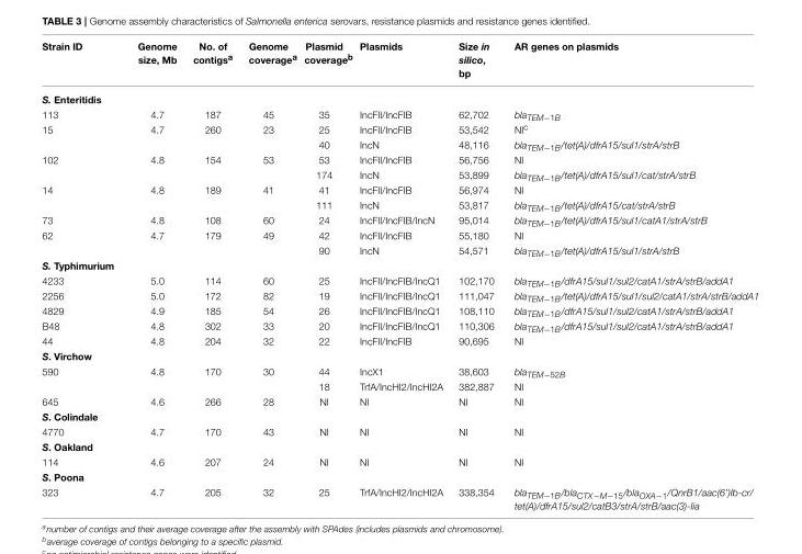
<table><thead><tr><td>Strain ID</td><td>Genome size, Mb</td><td>No. of contigs<sup>a</sup></td><td>Genome coverage<sup>a</sup></td><td>Plasmid coverage<sup>b</sup></td><td>Plasmids</td><td>Size in silico, bp</td><td>AR genes on plasmids</td></tr></thead><tbody><tr><td colspan="8">S. Enteritidis</td></tr><tr><td>113</td><td>4.7</td><td>187</td><td>45</td><td>35</td><td>IncFII/IncFIB</td><td>62,702</td><td>blaTEM−1B</td></tr><tr><td rowspan="2">15</td><td>4.7</td><td>260</td><td>23</td><td>25</td><td>IncFII/IncFIB</td><td>53,542</td><td>NI<sup>c</sup></td></tr><tr><td></td><td></td><td></td><td>40</td><td>IncN</td><td>48,116</td><td>blaTEM−1B/tet(A)/dfrA15/sul1/strA/strB</td></tr><tr><td rowspan="2">102</td><td>4.8</td><td>154</td><td>53</td><td>53</td><td>IncFII/IncFIB</td><td>56,756</td><td>NI</td></tr><tr><td></td><td></td><td></td><td>174</td><td>IncN</td><td>53,899</td><td>blaTEM−1B/tet(A)/dfrA15/sul1/cat/strA/strB</td></tr><tr><td rowspan="2">14</td><td>4.8</td><td>189</td><td>41</td><td>41</td><td>IncFII/IncFIB</td><td>56,974</td><td>NI</td></tr><tr><td></td><td></td><td></td><td>111</td><td>IncN</td><td>53,817</td><td>blaTEM−1B/tet(A)/dfrA15/cat/strA/strB</td></tr><tr><td>73</td><td>4.8</td><td>108</td><td>60</td><td>24</td><td>IncFII/IncFIB/IncN</td><td>95,014</td><td>blaTEM−1B/tet(A)/dfrA15/sul1/catA1/strA/strB</td></tr><tr><td rowspan="2">62</td><td>4.7</td><td>179</td><td>49</td><td>42</td><td>IncFII/IncFIB</td><td>55,180</td><td>NI</td></tr><tr><td></td><td></td><td></td><td>90</td><td>IncN</td><td>54,571</td><td>blaTEM−1B/tet(A)/dfrA15/sul1/strA/strB</td></tr><tr><td colspan="8">S. Typhimurium</td></tr><tr><td>4233</td><td>5.0</td><td>114</td><td>60</td><td>25</td><td>IncFII/IncFIB/IncQ1</td><td>102,170</td><td>blaTEM−1B/dfrA15/sul1/sul2/catA1/strA/strB/addA1</td></tr><tr><td>2256</td><td>5.0</td><td>172</td><td>82</td><td>19</td><td>IncFII/IncFIB/IncQ1</td><td>111,047</td><td>blaTEM−1B/tet(A)/dfrA15/sul1/sul2/catA1/strA/strB/addA1</td></tr><tr><td>4829</td><td>4.9</td><td>185</td><td>54</td><td>26</td><td>IncFII/IncFIB/IncQ1</td><td>108,110</td><td>blaTEM−1B/dfrA15/sul1/sul2/catA1/strA/strB/addA1</td></tr><tr><td>B48</td><td>4.8</td><td>302</td><td>33</td><td>20</td><td>IncFII/IncFIB/IncQ1</td><td>110,306</td><td>blaTEM−1B/dfrA15/sul1/sul2/catA1/strA/strB/addA1</td></tr><tr><td>44</td><td>4.8</td><td>204</td><td>32</td><td>22</td><td>IncFII/IncFIB</td><td>90,695</td><td>NI</td></tr><tr><td colspan="8">S. Virchow</td></tr><tr><td rowspan="2">590</td><td>4.8</td><td>170</td><td>30</td><td>44</td><td>IncX1</td><td>38,603</td><td>blaTEM−52B</td></tr><tr><td></td><td></td><td></td><td>18</td><td>TrfA/IncHI2/IncHI2A</td><td>382,887</td><td>NI</td></tr><tr><td>645</td><td>4.6</td><td>266</td><td>28</td><td>NI</td><td>NI</td><td>NI</td><td>NI</td></tr><tr><td colspan="8">S. Colindale</td></tr><tr><td>4770</td><td>4.7</td><td>170</td><td>43</td><td>NI</td><td>NI</td><td>NI</td><td>NI</td></tr><tr><td colspan="8">S. Oakland</td></tr><tr><td>114</td><td>4.6</td><td>207</td><td>24</td><td>NI</td><td>NI</td><td>NI</td><td>NI</td></tr><tr><td colspan="8">S. Poona</td></tr><tr><td>323</td><td>4.7</td><td>205</td><td>32</td><td>25</td><td>TrfA/IncHI2/IncHI2A</td><td>338,354</td><td>blaTEM−1B/blaCTX−M−15/blaOXA−1/QnrB1/aac(6’)Ib-cr/ tet(A)/dfrA15/sul2/catB3/strA/strB/aac(3)-Iia</td></tr></tbody></table>